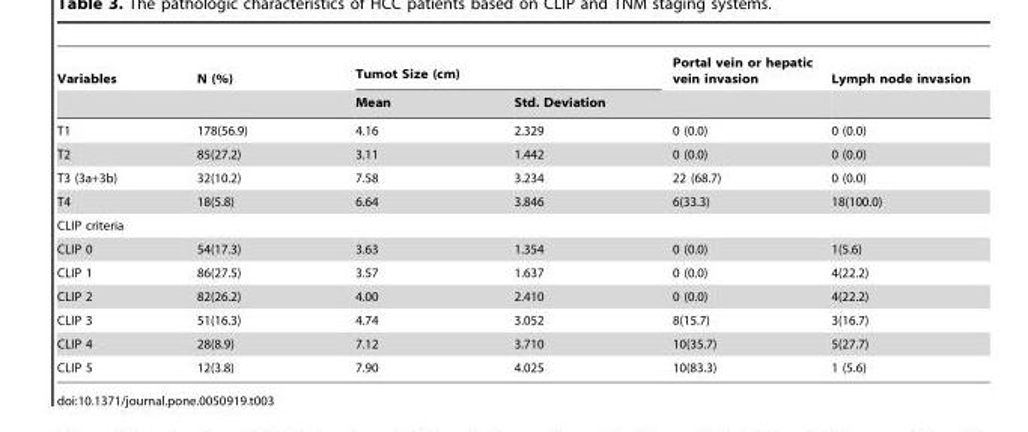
<table><thead><tr><td rowspan="2">Variables</td><td rowspan="2">N (%)</td><td colspan="2">Tumot Size (cm)</td><td rowspan="2">Portal vein or hepatic vein invasion</td><td rowspan="2">Lymph node invasion</td></tr><tr><td>Mean</td><td>Std. Deviation</td></tr></thead><tbody><tr><td>T1</td><td>178(56.9)</td><td>4.16</td><td>2.329</td><td>0 (0.0)</td><td>0 (0.0)</td></tr><tr><td>T2</td><td>85(27.2)</td><td>3.11</td><td>1.442</td><td>0 (0.0)</td><td>0 (0.0)</td></tr><tr><td>T3 (3a+3b)</td><td>32(10.2)</td><td>7.58</td><td>3.234</td><td>22 (68.7)</td><td>0 (0.0)</td></tr><tr><td>T4</td><td>18(5.8)</td><td>6.64</td><td>3.846</td><td>6(33.3)</td><td>18(100.0)</td></tr><tr><td colspan="6">CLIP criteria</td></tr><tr><td>CLIP 0</td><td>54(17.3)</td><td>3.63</td><td>1.354</td><td>0 (0.0)</td><td>1(5.6)</td></tr><tr><td>CLIP 1</td><td>86(27.5)</td><td>3.57</td><td>1.637</td><td>0 (0.0)</td><td>4(22.2)</td></tr><tr><td>CLIP 2</td><td>82(26.2)</td><td>4.00</td><td>2.410</td><td>0 (0.0)</td><td>4(22.2)</td></tr><tr><td>CLIP 3</td><td>51(16.3)</td><td>4.74</td><td>3.052</td><td>8(15.7)</td><td>3(16.7)</td></tr><tr><td>CLIP 4</td><td>28(8.9)</td><td>7.12</td><td>3.710</td><td>10(35.7)</td><td>5(27.7)</td></tr><tr><td>CLIP 5</td><td>12(3.8)</td><td>7.90</td><td>4.025</td><td>10(83.3)</td><td>1 (5.6)</td></tr></tbody></table>